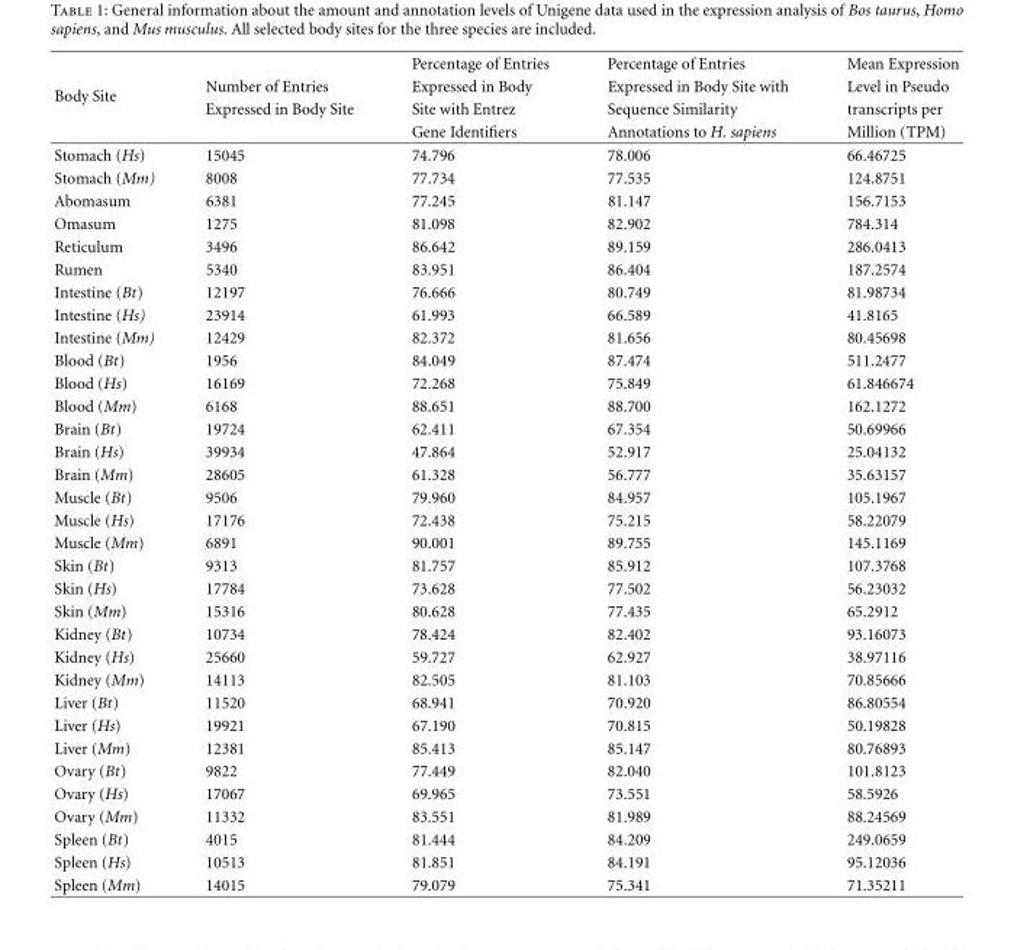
<table><thead><tr><td rowspan="4">Body Site</td><td rowspan="4">Number of Entries Expressed in Body Site</td><td rowspan="4">Percentage of Entries Expressed in Body Site with Entrez Gene Identifiers</td><td rowspan="4">Percentage of Entries Expressed in Body Site with Sequence Similarity Annotations to H. sapiens</td><td rowspan="4">Mean Expression Level in Pseudo transcripts per Million (TPM)</td></tr><tr></tr><tr></tr><tr></tr></thead><tbody><tr><td>Stomach (Hs)</td><td>15045</td><td>74.796</td><td>78.006</td><td>66.46725</td></tr><tr><td>Stomach (Mm)</td><td>8008</td><td>77.734</td><td>77.535</td><td>124.8751</td></tr><tr><td>Abomasum</td><td>6381</td><td>77.245</td><td>81.147</td><td>156.7153</td></tr><tr><td>Omasum</td><td>1275</td><td>81.098</td><td>82.902</td><td>784.314</td></tr><tr><td>Reticulum</td><td>3496</td><td>86.642</td><td>89.159</td><td>286.0413</td></tr><tr><td>Rumen</td><td>5340</td><td>83.951</td><td>86.404</td><td>187.2574</td></tr><tr><td>Intestine (Bt)</td><td>12197</td><td>76.666</td><td>80.749</td><td>81.98734</td></tr><tr><td>Intestine (Hs)</td><td>23914</td><td>61.993</td><td>66.589</td><td>41.8165</td></tr><tr><td>Intestine (Mm)</td><td>12429</td><td>82.372</td><td>81.656</td><td>80.45698</td></tr><tr><td>Blood (Bt)</td><td>1956</td><td>84.049</td><td>87.474</td><td>511.2477</td></tr><tr><td>Blood (Hs)</td><td>16169</td><td>72.268</td><td>75.849</td><td>61.846674</td></tr><tr><td>Blood (Mm)</td><td>6168</td><td>88.651</td><td>88.700</td><td>162.1272</td></tr><tr><td>Brain (Bt)</td><td>19724</td><td>62.411</td><td>67.354</td><td>50.69966</td></tr><tr><td>Brain (Hs)</td><td>39934</td><td>47.864</td><td>52.917</td><td>25.04132</td></tr><tr><td>Brain (Mm)</td><td>28605</td><td>61.328</td><td>56.777</td><td>35.63157</td></tr><tr><td>Muscle (Bt)</td><td>9506</td><td>79.960</td><td>84.957</td><td>105.1967</td></tr><tr><td>Muscle (Hs)</td><td>17176</td><td>72.438</td><td>75.215</td><td>58.22079</td></tr><tr><td>Muscle (Mm)</td><td>6891</td><td>90.001</td><td>89.755</td><td>145.1169</td></tr><tr><td>Skin (Bt)</td><td>9313</td><td>81.757</td><td>85.912</td><td>107.3768</td></tr><tr><td>Skin (Hs)</td><td>17784</td><td>73.628</td><td>77.502</td><td>56.23032</td></tr><tr><td>Skin (Mm)</td><td>15316</td><td>80.628</td><td>77.435</td><td>65.2912</td></tr><tr><td>Kidney (Bt)</td><td>10734</td><td>78.424</td><td>82.402</td><td>93.16073</td></tr><tr><td>Kidney (Hs)</td><td>25660</td><td>59.727</td><td>62.927</td><td>38.97116</td></tr><tr><td>Kidney (Mm)</td><td>14113</td><td>82.505</td><td>81.103</td><td>70.85666</td></tr><tr><td>Liver (Bt)</td><td>11520</td><td>68.941</td><td>70.920</td><td>86.80554</td></tr><tr><td>Liver (Hs)</td><td>19921</td><td>67.190</td><td>70.815</td><td>50.19828</td></tr><tr><td>Liver (Mm)</td><td>12381</td><td>85.413</td><td>85.147</td><td>80.76893</td></tr><tr><td>Ovary (Bt)</td><td>9822</td><td>77.449</td><td>82.040</td><td>101.8123</td></tr><tr><td>Ovary (Hs)</td><td>17067</td><td>69.965</td><td>73.551</td><td>58.5926</td></tr><tr><td>Ovary (Mm)</td><td>11332</td><td>83.551</td><td>81.989</td><td>88.24569</td></tr><tr><td>Spleen (Bt)</td><td>4015</td><td>81.444</td><td>84.209</td><td>249.0659</td></tr><tr><td>Spleen (Hs)</td><td>10513</td><td>81.851</td><td>84.191</td><td>95.12036</td></tr><tr><td>Spleen (Mm)</td><td>14015</td><td>79.079</td><td>75.341</td><td>71.35211</td></tr></tbody></table>